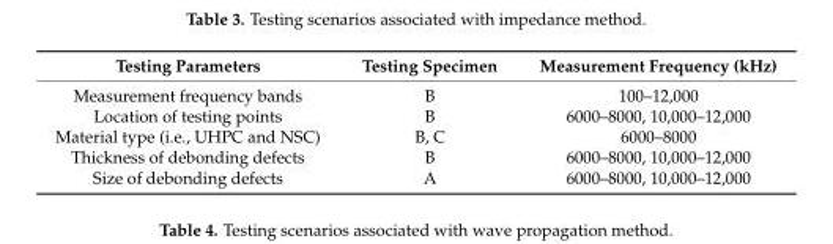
<table><thead><tr><td>Testing Parameters</td><td>Testing Specimen</td><td>Measurement Frequency (kHz)</td></tr></thead><tbody><tr><td>Measurement frequency bands</td><td>B</td><td>100–12,000</td></tr><tr><td>Location of testing points</td><td>B</td><td>6000–8000, 10,000–12,000</td></tr><tr><td>Material type (i.e., UHPC and NSC)</td><td>B, C</td><td>6000–8000</td></tr><tr><td>Thickness of debonding defects</td><td>B</td><td>6000–8000, 10,000–12,000</td></tr><tr><td>Size of debonding defects</td><td>A</td><td>6000–8000, 10,000–12,000</td></tr></tbody></table>